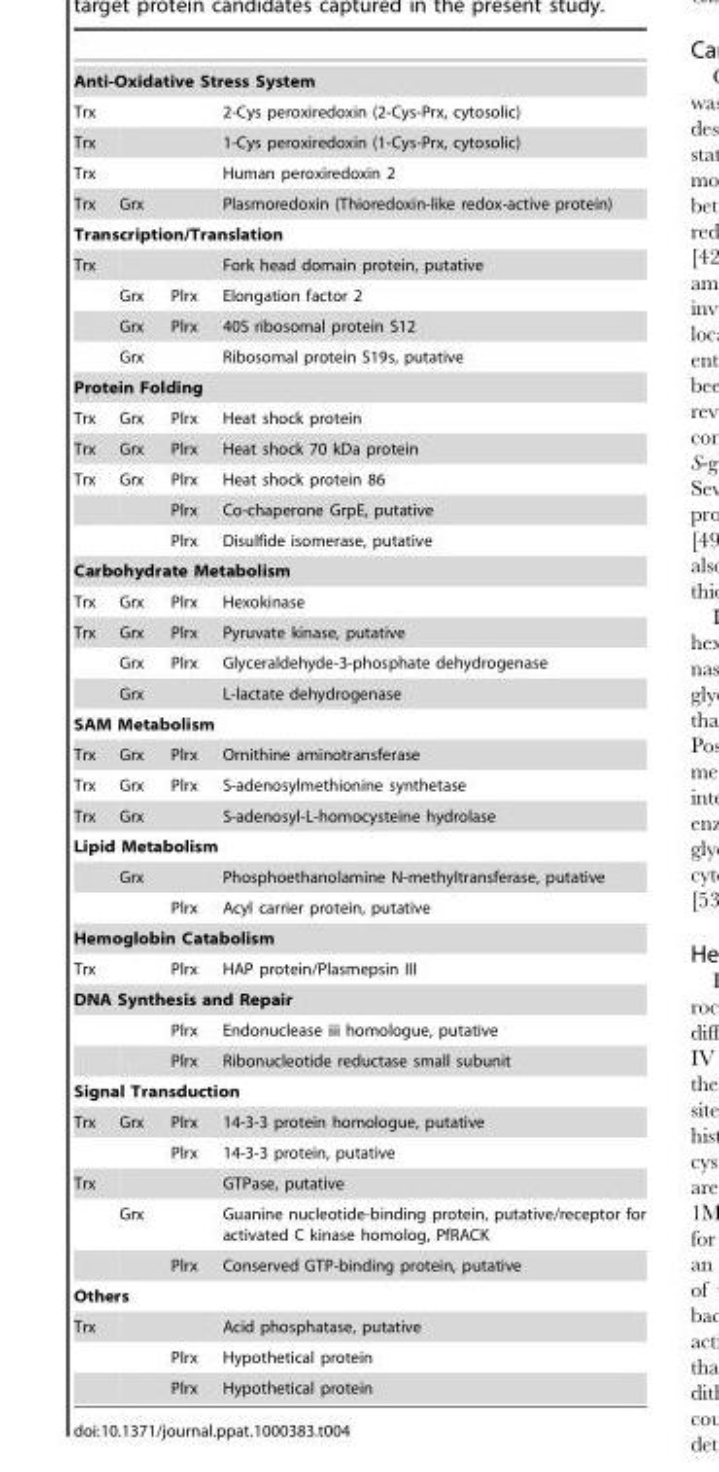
<table><tbody><tr><td colspan="4">Anti-Oxidative Stress System</td></tr><tr><td>Trx</td><td></td><td></td><td>2-Cys peroxiredoxin (2-Cys-Prx, cytosolic)</td></tr><tr><td>Trx</td><td></td><td></td><td>1-Cys peroxiredoxin (1-Cys-Prx, cytosolic)</td></tr><tr><td>Trx</td><td></td><td></td><td>Human peroxiredoxin 2</td></tr><tr><td>Trx</td><td>Grx</td><td></td><td>Plasmoredoxin (Thioredoxin-like redox-active protein)</td></tr><tr><td colspan="4">Transcription/Translation</td></tr><tr><td rowspan="4">Trx</td><td></td><td></td><td>Fork head domain protein, putative</td></tr><tr><td>Grx</td><td>Plrx</td><td>Elongation factor 2</td></tr><tr><td>Grx</td><td>Plrx</td><td>40S ribosomal protein S12</td></tr><tr><td>Grx</td><td></td><td>Ribosomal protein S19s, putative</td></tr><tr><td colspan="4">Protein Folding</td></tr><tr><td>Trx</td><td>Grx</td><td>Plrx</td><td>Heat shock protein</td></tr><tr><td>Trx</td><td>Grx</td><td>Plrx</td><td>Heat shock 70 kDa protein</td></tr><tr><td rowspan="3">Trx</td><td>Grx</td><td>Plrx</td><td>Heat shock protein 86</td></tr><tr><td></td><td>Plrx</td><td>Co-chaperone GrpE, putative</td></tr><tr><td></td><td>Plrx</td><td>Disulfide isomerase, putative</td></tr><tr><td colspan="4">Carbohydrate Metabolism</td></tr><tr><td>Trx</td><td>Grx</td><td>Plrx</td><td>Hexokinase</td></tr><tr><td rowspan="3">Trx</td><td>Grx</td><td>Plrx</td><td>Pyruvate kinase, putative</td></tr><tr><td>Grx</td><td>Plrx</td><td>Glyceraldehyde-3-phosphate dehydrogenase</td></tr><tr><td>Grx</td><td></td><td>L-lactate dehydrogenase</td></tr><tr><td colspan="4">SAM Metabolism</td></tr><tr><td>Trx</td><td>Grx</td><td>Plrx</td><td>Ornithine aminotransferase</td></tr><tr><td>Trx</td><td>Grx</td><td>Plrx</td><td>S-adenosylmethionine synthetase</td></tr><tr><td>Trx</td><td>Grx</td><td></td><td>S-adenosyl-L-homocysteine hydrolase</td></tr><tr><td colspan="4">Lipid Metabolism</td></tr><tr><td></td><td>Grx</td><td></td><td>Phosphoethanolamine N-methyltransferase, putative</td></tr><tr><td></td><td></td><td>Plrx</td><td>Acyl carrier protein, putative</td></tr><tr><td colspan="4">Hemoglobin Catabolism</td></tr><tr><td>Trx</td><td></td><td>Plrx</td><td>HAP protein/Plasmepsin III</td></tr><tr><td colspan="4">DNA Synthesis and Repair</td></tr><tr><td></td><td></td><td>Plrx</td><td>Endonuclease iii homologue, putative</td></tr><tr><td></td><td></td><td>Plrx</td><td>Ribonucleotide reductase small subunit</td></tr><tr><td colspan="4">Signal Transduction</td></tr><tr><td rowspan="2">Trx</td><td>Grx</td><td>Plrx</td><td>14-3-3 protein homologue, putative</td></tr><tr><td></td><td>Plrx</td><td>14-3-3 protein, putative</td></tr><tr><td rowspan="3">Trx</td><td></td><td></td><td>GTPase, putative</td></tr><tr><td>Grx</td><td></td><td>Guanine nucleotide-binding protein, putative/receptor for activated C kinase homolog, PfRACK</td></tr><tr><td></td><td>Plrx</td><td>Conserved GTP-binding protein, putative</td></tr><tr><td colspan="4">Others</td></tr><tr><td rowspan="3">Trx</td><td></td><td></td><td>Acid phosphatase, putative</td></tr><tr><td></td><td>Plrx</td><td>Hypothetical protein</td></tr><tr><td></td><td>Plrx</td><td>Hypothetical protein</td></tr></tbody></table>